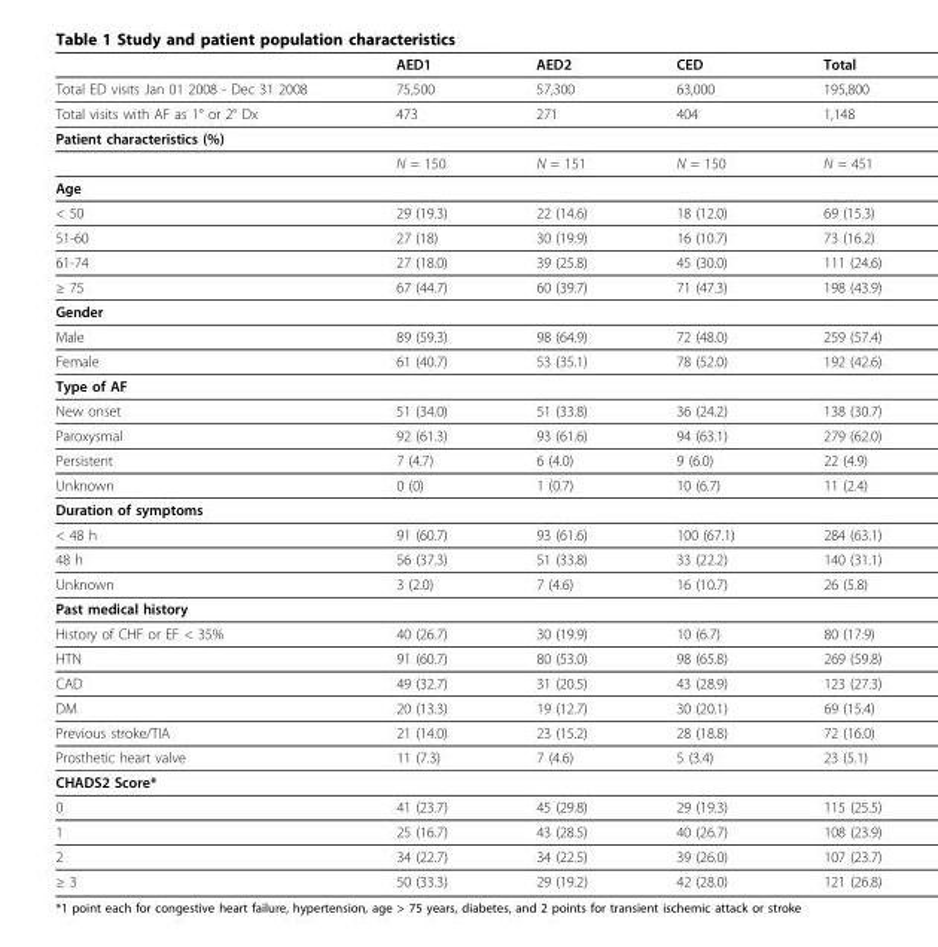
<table><thead><tr><td></td><td>AED1</td><td>AED2</td><td>CED</td><td>Total</td></tr></thead><tbody><tr><td>Total ED visits Jan 01 2008 - Dec 31 2008</td><td>75,500</td><td>57,300</td><td>63,000</td><td>195,800</td></tr><tr><td>Total visits with AF as 1° or 2° Dx</td><td>473</td><td>271</td><td>404</td><td>1,148</td></tr><tr><td colspan="5">Patient characteristics (%)</td></tr><tr><td></td><td>N = 150</td><td>N = 151</td><td>N = 150</td><td>N = 451</td></tr><tr><td colspan="5">Age</td></tr><tr><td>&lt; 50</td><td>29 (19.3)</td><td>22 (14.6)</td><td>18 (12.0)</td><td>69 (15.3)</td></tr><tr><td>51-60</td><td>27 (18)</td><td>30 (19.9)</td><td>16 (10.7)</td><td>73 (16.2)</td></tr><tr><td>61-74</td><td>27 (18.0)</td><td>39 (25.8)</td><td>45 (30.0)</td><td>111 (24.6)</td></tr><tr><td>≥ 75</td><td>67 (44.7)</td><td>60 (39.7)</td><td>71 (47.3)</td><td>198 (43.9)</td></tr><tr><td colspan="5">Gender</td></tr><tr><td>Male</td><td>89 (59.3)</td><td>98 (64.9)</td><td>72 (48.0)</td><td>259 (57.4)</td></tr><tr><td>Female</td><td>61 (40.7)</td><td>53 (35.1)</td><td>78 (52.0)</td><td>192 (42.6)</td></tr><tr><td colspan="5">Type of AF</td></tr><tr><td>New onset</td><td>51 (34.0)</td><td>51 (33.8)</td><td>36 (24.2)</td><td>138 (30.7)</td></tr><tr><td>Paroxysmal</td><td>92 (61.3)</td><td>93 (61.6)</td><td>94 (63.1)</td><td>279 (62.0)</td></tr><tr><td>Persistent</td><td>7 (4.7)</td><td>6 (4.0)</td><td>9 (6.0)</td><td>22 (4.9)</td></tr><tr><td>Unknown</td><td>0 (0)</td><td>1 (0.7)</td><td>10 (6.7)</td><td>11 (2.4)</td></tr><tr><td colspan="5">Duration of symptoms</td></tr><tr><td>&lt; 48 h</td><td>91 (60.7)</td><td>93 (61.6)</td><td>100 (67.1)</td><td>284 (63.1)</td></tr><tr><td>48 h</td><td>56 (37.3)</td><td>51 (33.8)</td><td>33 (22.2)</td><td>140 (31.1)</td></tr><tr><td>Unknown</td><td>3 (2.0)</td><td>7 (4.6)</td><td>16 (10.7)</td><td>26 (5.8)</td></tr><tr><td colspan="5">Past medical history</td></tr><tr><td>History of CHF or EF &lt; 35%</td><td>40 (26.7)</td><td>30 (19.9)</td><td>10 (6.7)</td><td>80 (17.9)</td></tr><tr><td>HTN</td><td>91 (60.7)</td><td>80 (53.0)</td><td>98 (65.8)</td><td>269 (59.8)</td></tr><tr><td>CAD</td><td>49 (32.7)</td><td>31 (20.5)</td><td>43 (28.9)</td><td>123 (27.3)</td></tr><tr><td>DM</td><td>20 (13.3)</td><td>19 (12.7)</td><td>30 (20.1)</td><td>69 (15.4)</td></tr><tr><td>Previous stroke/TIA</td><td>21 (14.0)</td><td>23 (15.2)</td><td>28 (18.8)</td><td>72 (16.0)</td></tr><tr><td>Prosthetic heart valve</td><td>11 (7.3)</td><td>7 (4.6)</td><td>5 (3.4)</td><td>23 (5.1)</td></tr><tr><td colspan="5">CHADS2 Score*</td></tr><tr><td>0</td><td>41 (23.7)</td><td>45 (29.8)</td><td>29 (19.3)</td><td>115 (25.5)</td></tr><tr><td>1</td><td>25 (16.7)</td><td>43 (28.5)</td><td>40 (26.7)</td><td>108 (23.9)</td></tr><tr><td>2</td><td>34 (22.7)</td><td>34 (22.5)</td><td>39 (26.0)</td><td>107 (23.7)</td></tr><tr><td>≥ 3</td><td>50 (33.3)</td><td>29 (19.2)</td><td>42 (28.0)</td><td>121 (26.8)</td></tr></tbody></table>